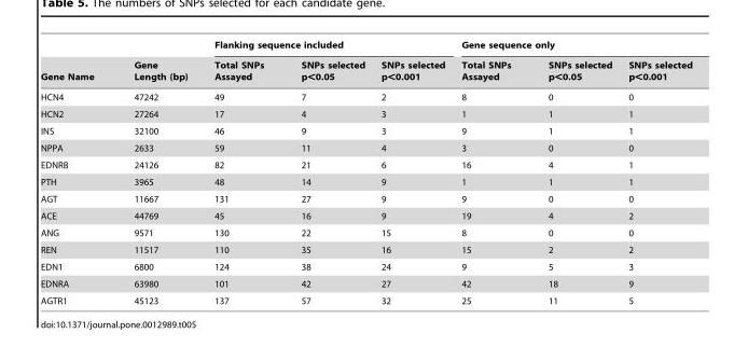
<table><thead><tr><td rowspan="2">Gene Name</td><td rowspan="2">Gene Length (bp)</td><td colspan="3">Flanking sequence included</td><td colspan="3">Gene sequence only</td></tr><tr><td>Total SNPs Assayed</td><td>SNPs selected p&lt;0.05</td><td>SNPs selected p&lt;0.001</td><td>Total SNPs Assayed</td><td>SNPs selected p&lt;0.05</td><td>SNPs selected p&lt;0.001</td></tr></thead><tbody><tr><td>HCN4</td><td>47242</td><td>49</td><td>7</td><td>2</td><td>8</td><td>0</td><td>0</td></tr><tr><td>HCN2</td><td>27264</td><td>17</td><td>4</td><td>3</td><td>1</td><td>1</td><td>1</td></tr><tr><td>INS</td><td>32100</td><td>46</td><td>9</td><td>3</td><td>9</td><td>1</td><td>1</td></tr><tr><td>NPPA</td><td>2633</td><td>59</td><td>11</td><td>4</td><td>3</td><td>0</td><td>0</td></tr><tr><td>EDNRB</td><td>24126</td><td>82</td><td>21</td><td>6</td><td>16</td><td>4</td><td>1</td></tr><tr><td>PTH</td><td>3965</td><td>48</td><td>14</td><td>9</td><td>1</td><td>1</td><td>1</td></tr><tr><td>AGT</td><td>11667</td><td>131</td><td>27</td><td>9</td><td>9</td><td>0</td><td>0</td></tr><tr><td>ACE</td><td>44769</td><td>45</td><td>16</td><td>9</td><td>19</td><td>4</td><td>2</td></tr><tr><td>ANG</td><td>9571</td><td>130</td><td>22</td><td>15</td><td>8</td><td>0</td><td>0</td></tr><tr><td>REN</td><td>11517</td><td>110</td><td>35</td><td>16</td><td>15</td><td>2</td><td>2</td></tr><tr><td>EDN1</td><td>6800</td><td>124</td><td>38</td><td>24</td><td>9</td><td>5</td><td>3</td></tr><tr><td>EDNRA</td><td>63980</td><td>101</td><td>42</td><td>27</td><td>42</td><td>18</td><td>9</td></tr><tr><td>AGTR1</td><td>45123</td><td>137</td><td>57</td><td>32</td><td>25</td><td>11</td><td>5</td></tr></tbody></table>